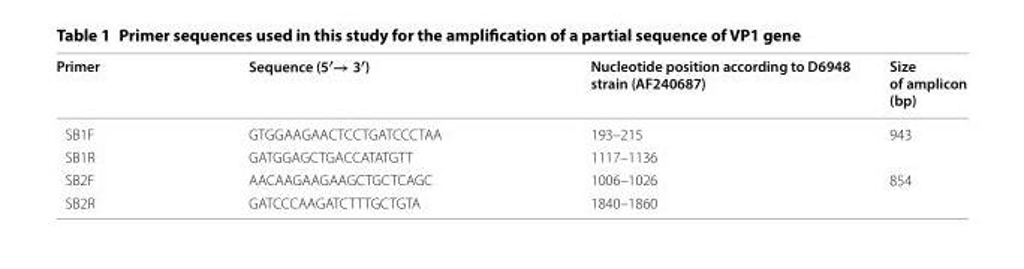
<table><thead><tr><td>Primer</td><td>Sequence (5′→ 3′)</td><td>Nucleotide position according to D6948 strain (AF240687)</td><td>Size of amplicon (bp)</td></tr></thead><tbody><tr><td>SB1F</td><td>GTG GAA GAA CTC CTG ATC CCTAA</td><td>193–215</td><td rowspan="2">943</td></tr><tr><td>SB1R</td><td>GAT GGA GCT GAC CAT ATG TT</td><td>1117–1136</td></tr><tr><td>SB2F</td><td>AAC AAG AAG AAG CTG CTC AGC</td><td>1006–1026</td><td rowspan="2">854</td></tr><tr><td>SB2R</td><td>GAT CCC AAG ATC TTT GCT GTA</td><td>1840–1860</td></tr></tbody></table>